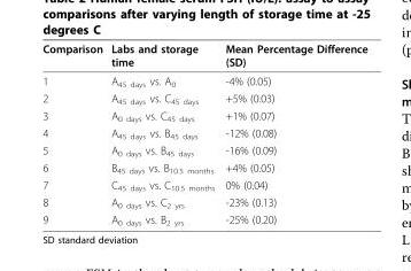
<table><thead><tr><td>Comparison</td><td>Labs and storage time</td><td>Mean Percentage Difference (SD)</td></tr></thead><tbody><tr><td>1</td><td>A<sub>45 days</sub> vs. A<sub>0</sub></td><td>-4% (0.05)</td></tr><tr><td>2</td><td>A<sub>45 days</sub> vs. C<sub>45 days</sub></td><td>+5% (0.03)</td></tr><tr><td>3</td><td>A<sub>0 days</sub> vs. C<sub>45 days</sub></td><td>+1% (0.07)</td></tr><tr><td>4</td><td>A<sub>45 days</sub> vs. B<sub>45 days</sub></td><td>-12% (0.08)</td></tr><tr><td>5</td><td>A<sub>0 days</sub> vs. B<sub>45 days</sub></td><td>-16% (0.09)</td></tr><tr><td>6</td><td>B<sub>45 days</sub> vs. B<sub>10.5 months</sub></td><td>+4% (0.05)</td></tr><tr><td>7</td><td>C<sub>45 days</sub> vs. C<sub>10.5 months</sub></td><td>0% (0.04)</td></tr><tr><td>8</td><td>A<sub>0 days</sub> vs. C<sub>2 yrs</sub></td><td>-23% (0.13)</td></tr><tr><td>9</td><td>A<sub>0 days</sub> vs. B<sub>2 yrs</sub></td><td>-25% (0.20)</td></tr></tbody></table>